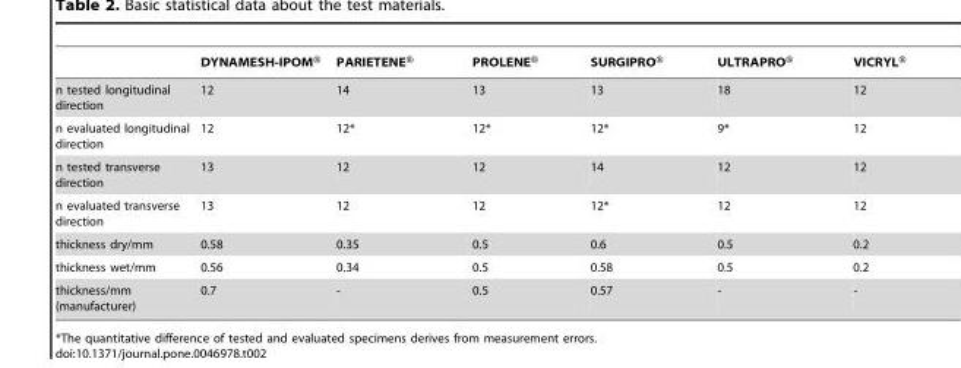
<table><thead><tr><td></td><td>DYNAMESH-IPOM®</td><td>PARIETENE®</td><td>PROLENE®</td><td>SURGIPRO®</td><td>ULTRAPRO®</td><td>VICRYL®</td></tr></thead><tbody><tr><td>n tested longitudinal direction</td><td>12</td><td>14</td><td>13</td><td>13</td><td>18</td><td>12</td></tr><tr><td>n evaluated longitudinal direction</td><td>12</td><td>12*</td><td>12*</td><td>12*</td><td>9*</td><td>12</td></tr><tr><td>n tested transverse direction</td><td>13</td><td>12</td><td>12</td><td>14</td><td>12</td><td>12</td></tr><tr><td>n evaluated transverse direction</td><td>13</td><td>12</td><td>12</td><td>12*</td><td>12</td><td>12</td></tr><tr><td>thickness dry/mm</td><td>0.58</td><td>0.35</td><td>0.5</td><td>0.6</td><td>0.5</td><td>0.2</td></tr><tr><td>thickness wet/mm</td><td>0.56</td><td>0.34</td><td>0.5</td><td>0.58</td><td>0.5</td><td>0.2</td></tr><tr><td>thickness/mm (manufacturer)</td><td>0.7</td><td>-</td><td>0.5</td><td>0.57</td><td>-</td><td>-</td></tr></tbody></table>